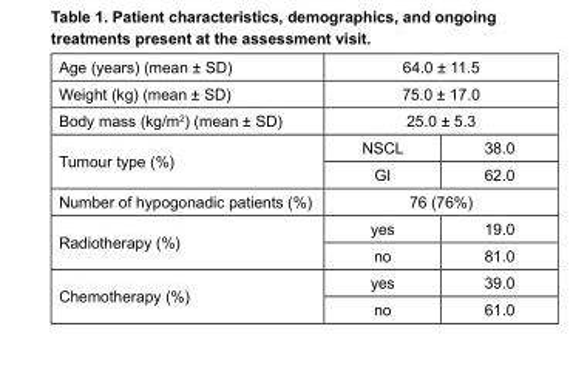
<table><tbody><tr><td>Age (years) (mean ± SD)</td><td colspan="2">64.0 ± 11.5</td></tr><tr><td>Weight (kg) (mean ± SD)</td><td colspan="2">75.0 ± 17.0</td></tr><tr><td>Body mass (kg/m<sup>2</sup>) (mean ± SD)</td><td colspan="2">25.0 ± 5.3</td></tr><tr><td rowspan="2">Tumour type (%)</td><td>NSCL</td><td>38.0</td></tr><tr><td>GI</td><td>62.0</td></tr><tr><td>Number of hypogonadic patients (%)</td><td colspan="2">76 (76%)</td></tr><tr><td rowspan="2">Radiotherapy (%)</td><td>yes</td><td>19.0</td></tr><tr><td>no</td><td>81.0</td></tr><tr><td rowspan="2">Chemotherapy (%)</td><td>yes</td><td>39.0</td></tr><tr><td>no</td><td>61.0</td></tr></tbody></table>